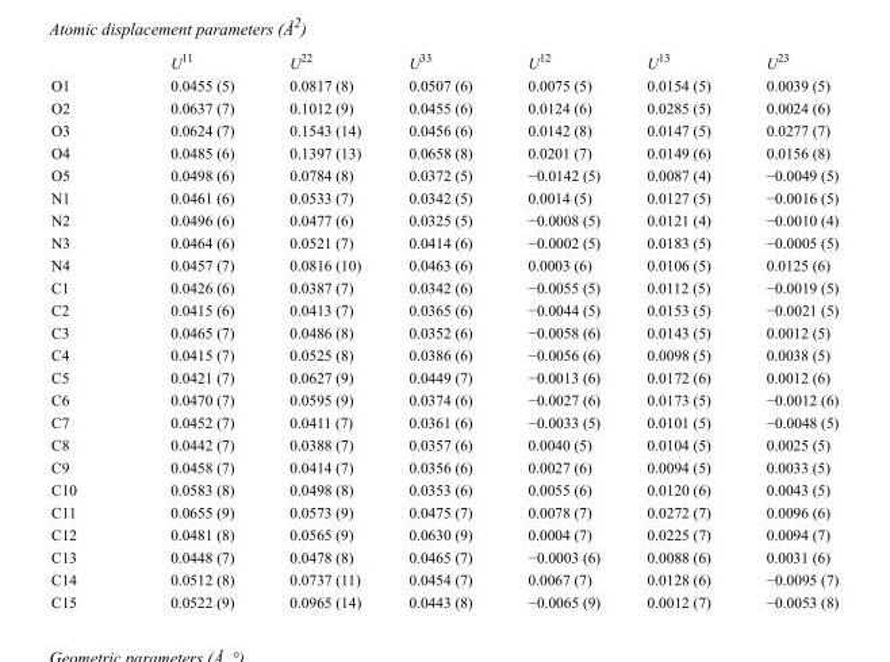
<table><thead><tr><td></td><td>U<sup>11</sup></td><td>U<sup>22</sup></td><td>U<sup>33</sup></td><td>U<sup>12</sup></td><td>U<sup>13</sup></td><td>U<sup>23</sup></td></tr></thead><tbody><tr><td>O1</td><td>0.0455 (5)</td><td>0.0817 (8)</td><td>0.0507 (6)</td><td>0.0075 (5)</td><td>0.0154 (5)</td><td>0.0039 (5)</td></tr><tr><td>O2</td><td>0.0637 (7)</td><td>0.1012 (9)</td><td>0.0455 (6)</td><td>0.0124 (6)</td><td>0.0285 (5)</td><td>0.0024 (6)</td></tr><tr><td>O3</td><td>0.0624 (7)</td><td>0.1543 (14)</td><td>0.0456 (6)</td><td>0.0142 (8)</td><td>0.0147 (5)</td><td>0.0277 (7)</td></tr><tr><td>O4</td><td>0.0485 (6)</td><td>0.1397 (13)</td><td>0.0658 (8)</td><td>0.0201 (7)</td><td>0.0149 (6)</td><td>0.0156 (8)</td></tr><tr><td>O5</td><td>0.0498 (6)</td><td>0.0784 (8)</td><td>0.0372 (5)</td><td>−0.0142 (5)</td><td>0.0087 (4)</td><td>−0.0049 (5)</td></tr><tr><td>N1</td><td>0.0461 (6)</td><td>0.0533 (7)</td><td>0.0342 (5)</td><td>0.0014 (5)</td><td>0.0127 (5)</td><td>−0.0016 (5)</td></tr><tr><td>N2</td><td>0.0496 (6)</td><td>0.0477 (6)</td><td>0.0325 (5)</td><td>−0.0008 (5)</td><td>0.0121 (4)</td><td>−0.0010 (4)</td></tr><tr><td>N3</td><td>0.0464 (6)</td><td>0.0521 (7)</td><td>0.0414 (6)</td><td>−0.0002 (5)</td><td>0.0183 (5)</td><td>−0.0005 (5)</td></tr><tr><td>N4</td><td>0.0457 (7)</td><td>0.0816 (10)</td><td>0.0463 (6)</td><td>0.0003 (6)</td><td>0.0106 (5)</td><td>0.0125 (6)</td></tr><tr><td>C1</td><td>0.0426 (6)</td><td>0.0387 (7)</td><td>0.0342 (6)</td><td>−0.0055 (5)</td><td>0.0112 (5)</td><td>−0.0019 (5)</td></tr><tr><td>C2</td><td>0.0415 (6)</td><td>0.0413 (7)</td><td>0.0365 (6)</td><td>−0.0044 (5)</td><td>0.0153 (5)</td><td>−0.0021 (5)</td></tr><tr><td>C3</td><td>0.0465 (7)</td><td>0.0486 (8)</td><td>0.0352 (6)</td><td>−0.0058 (6)</td><td>0.0143 (5)</td><td>0.0012 (5)</td></tr><tr><td>C4</td><td>0.0415 (7)</td><td>0.0525 (8)</td><td>0.0386 (6)</td><td>−0.0056 (6)</td><td>0.0098 (5)</td><td>0.0038 (5)</td></tr><tr><td>C5</td><td>0.0421 (7)</td><td>0.0627 (9)</td><td>0.0449 (7)</td><td>−0.0013 (6)</td><td>0.0172 (6)</td><td>0.0012 (6)</td></tr><tr><td>C6</td><td>0.0470 (7)</td><td>0.0595 (9)</td><td>0.0374 (6)</td><td>−0.0027 (6)</td><td>0.0173 (5)</td><td>−0.0012 (6)</td></tr><tr><td>C7</td><td>0.0452 (7)</td><td>0.0411 (7)</td><td>0.0361 (6)</td><td>−0.0033 (5)</td><td>0.0101 (5)</td><td>−0.0048 (5)</td></tr><tr><td>C8</td><td>0.0442 (7)</td><td>0.0388 (7)</td><td>0.0357 (6)</td><td>0.0040 (5)</td><td>0.0104 (5)</td><td>0.0025 (5)</td></tr><tr><td>C9</td><td>0.0458 (7)</td><td>0.0414 (7)</td><td>0.0356 (6)</td><td>0.0027 (6)</td><td>0.0094 (5)</td><td>0.0033 (5)</td></tr><tr><td>C10</td><td>0.0583 (8)</td><td>0.0498 (8)</td><td>0.0353 (6)</td><td>0.0055 (6)</td><td>0.0120 (6)</td><td>0.0043 (5)</td></tr><tr><td>C11</td><td>0.0655 (9)</td><td>0.0573 (9)</td><td>0.0475 (7)</td><td>0.0078 (7)</td><td>0.0272 (7)</td><td>0.0096 (6)</td></tr><tr><td>C12</td><td>0.0481 (8)</td><td>0.0565 (9)</td><td>0.0630 (9)</td><td>0.0004 (7)</td><td>0.0225 (7)</td><td>0.0094 (7)</td></tr><tr><td>C13</td><td>0.0448 (7)</td><td>0.0478 (8)</td><td>0.0465 (7)</td><td>−0.0003 (6)</td><td>0.0088 (6)</td><td>0.0031 (6)</td></tr><tr><td>C14</td><td>0.0512 (8)</td><td>0.0737 (11)</td><td>0.0454 (7)</td><td>0.0067 (7)</td><td>0.0128 (6)</td><td>−0.0095 (7)</td></tr><tr><td>C15</td><td>0.0522 (9)</td><td>0.0965 (14)</td><td>0.0443 (8)</td><td>−0.0065 (9)</td><td>0.0012 (7)</td><td>−0.0053 (8)</td></tr></tbody></table>